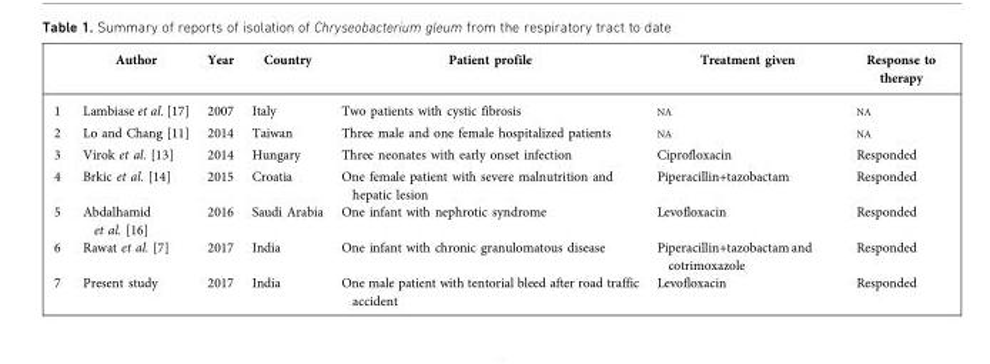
<table><thead><tr><td></td><td>Author</td><td>Year</td><td>Country</td><td>Patient profile</td><td>Treatment given</td><td>Response to therapy</td></tr></thead><tbody><tr><td>1</td><td>Lambiase et al. [17]</td><td>2007</td><td>Italy</td><td>Two patients with cystic fibrosis</td><td>NA</td><td>NA</td></tr><tr><td>2</td><td>Lo and Chang [11]</td><td>2014</td><td>Taiwan</td><td>Three male and one female hospitalized patients</td><td>NA</td><td>NA</td></tr><tr><td>3</td><td>Virok et al. [13]</td><td>2014</td><td>Hungary</td><td>Three neonates with early onset infection</td><td>Ciprofloxacin</td><td>Responded</td></tr><tr><td>4</td><td>Brkic et al. [14]</td><td>2015</td><td>Croatia</td><td>One female patient with severe malnutrition and hepatic lesion</td><td>Piperacillin+tazobactam</td><td>Responded</td></tr><tr><td>5</td><td>Abdalhamid et al. [16]</td><td>2016</td><td>Saudi Arabia</td><td>One infant with nephrotic syndrome</td><td>Levofloxacin</td><td>Responded</td></tr><tr><td>6</td><td>Rawat et al. [7]</td><td>2017</td><td>India</td><td>One infant with chronic granulomatous disease</td><td>Piperacillin+tazobactam and cotrimoxazole</td><td>Responded</td></tr><tr><td>7</td><td>Present study</td><td>2017</td><td>India</td><td>One male patient with tentorial bleed after road traffic accident</td><td>Levofloxacin</td><td>Responded</td></tr></tbody></table>